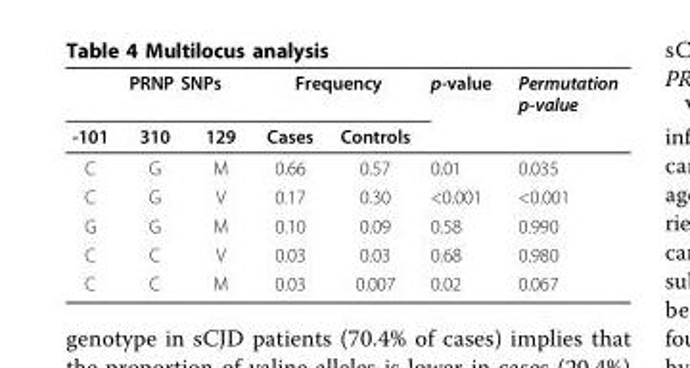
<table><thead><tr><td rowspan="2">-101</td><td colspan="2">PRNP SNPs</td><td colspan="2">Frequency</td><td rowspan="2">p-value</td><td rowspan="2">Permutation p-value</td></tr><tr><td>310</td><td>129</td><td>Cases</td><td>Controls</td></tr></thead><tbody><tr><td>C</td><td>G</td><td>M</td><td>0.66</td><td>0.57</td><td>0.01</td><td>0.035</td></tr><tr><td>C</td><td>G</td><td>V</td><td>0.17</td><td>0.30</td><td>&lt;0.001</td><td>&lt;0.001</td></tr><tr><td>G</td><td>G</td><td>M</td><td>0.10</td><td>0.09</td><td>0.58</td><td>0.990</td></tr><tr><td>C</td><td>C</td><td>V</td><td>0.03</td><td>0.03</td><td>0.68</td><td>0.980</td></tr><tr><td>C</td><td>C</td><td>M</td><td>0.03</td><td>0.007</td><td>0.02</td><td>0.067</td></tr></tbody></table>